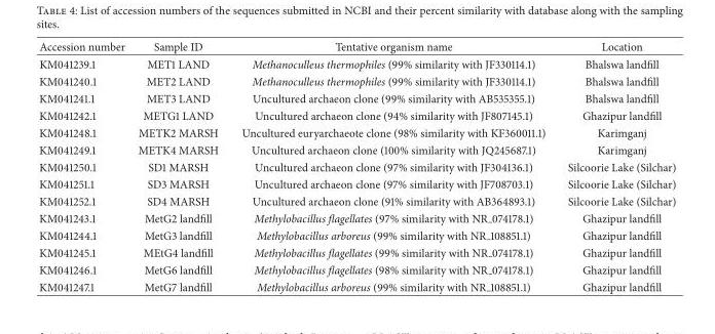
<table><thead><tr><td>Accession number</td><td>Sample ID</td><td>Tentative organism name</td><td>Location</td></tr></thead><tbody><tr><td>KM041239.1</td><td>MET1 LAND</td><td>Methanoculleus thermophiles (99% similarity with JF330114.1)</td><td>Bhalswa landfill</td></tr><tr><td>KM041240.1</td><td>MET2 LAND</td><td>Methanoculleus thermophiles (99% similarity with JF330114.1)</td><td>Bhalswa landfill</td></tr><tr><td>KM041241.1</td><td>MET3 LAND</td><td>Uncultured archaeon clone (99% similarity with AB535355.1)</td><td>Bhalswa landfill</td></tr><tr><td>KM041242.1</td><td>METG1 LAND</td><td>Uncultured archaeon clone (94% similarity with JF807145.1)</td><td>Ghazipur landfill</td></tr><tr><td>KM041248.1</td><td>METK2 MARSH</td><td>Uncultured euryarchaeote clone (98% similarity with KF360011.1)</td><td>Karimganj</td></tr><tr><td>KM041249.1</td><td>METK4 MARSH</td><td>Uncultured archaeon clone (100% similarity with JQ245687.1)</td><td>Karimganj</td></tr><tr><td>KM041250.1</td><td>SD1 MARSH</td><td>Uncultured archaeon clone (97% similarity with JF304136.1)</td><td>Silcoorie Lake (Silchar)</td></tr><tr><td>KM041251.1</td><td>SD3 MARSH</td><td>Uncultured archaeon clone (97% similarity with JF708703.1)</td><td>Silcoorie Lake (Silchar)</td></tr><tr><td>KM041252.1</td><td>SD4 MARSH</td><td>Uncultured archaeon clone (91% similarity with AB364893.1)</td><td>Silcoorie Lake (Silchar)</td></tr><tr><td>KM041243.1</td><td>MetG2 landfill</td><td>Methylobacillus flagellates (97% similarity with NR 074178.1)</td><td>Ghazipur landfill</td></tr><tr><td>KM041244.1</td><td>MetG3 landfill</td><td>Methylobacillus arboreus (99% similarity with NR 108851.1)</td><td>Ghazipur landfill</td></tr><tr><td>KM041245.1</td><td>MEtG4 landfill</td><td>Methylobacillus flagellates (99% similarity with NR 074178.1)</td><td>Ghazipur landfill</td></tr><tr><td>KM041246.1</td><td>MetG6 landfill</td><td>Methylobacillus flagellates (98% similarity with NR 074178.1)</td><td>Ghazipur landfill</td></tr><tr><td>KM041247.1</td><td>MetG7 landfill</td><td>Methylobacillus arboreus (99% similarity with NR 108851.1)</td><td>Ghazipur landfill</td></tr></tbody></table>